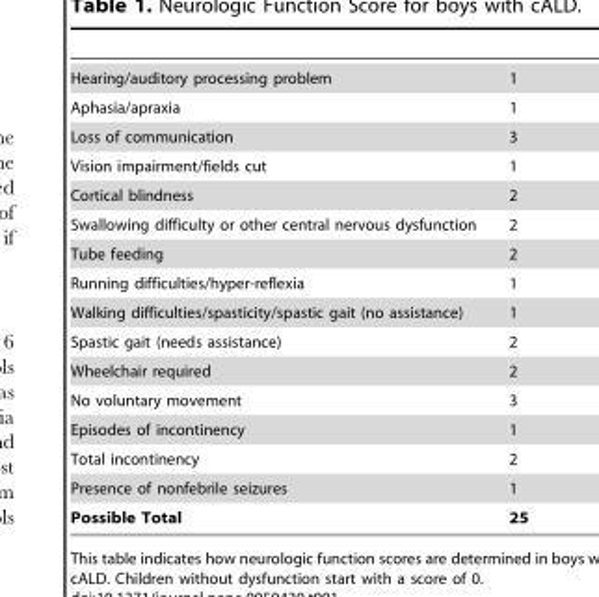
<table><tbody><tr><td>Hearing/auditory processing problem</td><td>1</td></tr><tr><td>Aphasia/apraxia</td><td>1</td></tr><tr><td>Loss of communication</td><td>3</td></tr><tr><td>Vision impairment/fields cut</td><td>1</td></tr><tr><td>Cortical blindness</td><td>2</td></tr><tr><td>Swallowing difficulty or other central nervous dysfunction</td><td>2</td></tr><tr><td>Tube feeding</td><td>2</td></tr><tr><td>Running difficulties/hyper-reflexia</td><td>1</td></tr><tr><td>Walking difficulties/spasticity/spastic gait (no assistance)</td><td>1</td></tr><tr><td>Spastic gait (needs assistance)</td><td>2</td></tr><tr><td>Wheelchair required</td><td>2</td></tr><tr><td>No voluntary movement</td><td>3</td></tr><tr><td>Episodes of incontinency</td><td>1</td></tr><tr><td>Total incontinency</td><td>2</td></tr><tr><td>Presence of nonfebrile seizures</td><td>1</td></tr><tr><td>Possible Total</td><td>25</td></tr></tbody></table>